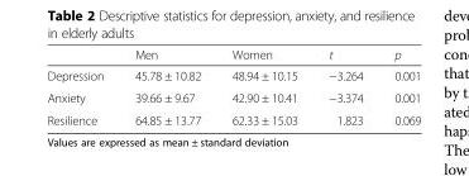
<table><thead><tr><td></td><td>Men</td><td>Women</td><td>t</td><td>p</td></tr></thead><tbody><tr><td>Depression</td><td>45.78 ± 10.82</td><td>48.94 ± 10.15</td><td>−3.264</td><td>0.001</td></tr><tr><td>Anxiety</td><td>39.66 ± 9.67</td><td>42.90 ± 10.41</td><td>−3.374</td><td>0.001</td></tr><tr><td>Resilience</td><td>64.85 ± 13.77</td><td>62.33 ± 15.03</td><td>1.823</td><td>0.069</td></tr></tbody></table>